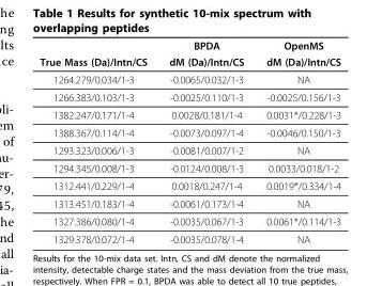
<table><thead><tr><td rowspan="2">True Mass (Da)/Intn/CS</td><td rowspan="2">BPDA dM (Da)/Intn/CS</td><td rowspan="2">OpenMS dM (Da)/Intn/CS</td></tr><tr></tr></thead><tbody><tr><td>1264.279/0.034/1-3</td><td>-0.0065/0.032/1-3</td><td>NA</td></tr><tr><td>1266.383/0.103/1-3</td><td>-0.0025/0.110/1-3</td><td>-0.0025/0.156/1-3</td></tr><tr><td>1382.247/0.171/1-4</td><td>0.0028/0.181/1-4</td><td>0.0031*/0.228/1-3</td></tr><tr><td>1388.367/0.114/1-4</td><td>-0.0073/0.097/1-4</td><td>-0.0046/0.150/1-3</td></tr><tr><td>1293.323/0.006/1-3</td><td>-0.0081/0.007/1-2</td><td>NA</td></tr><tr><td>1294.345/0.008/1-3</td><td>-0.0124/0.008/1-3</td><td>0.0033/0.018/1-2</td></tr><tr><td>1312.441/0.229/1-4</td><td>0.0018/0.247/1-4</td><td>0.0019*/0.334/1-4</td></tr><tr><td>1313.451/0.183/1-4</td><td>-0.0061/0.173/1-4</td><td>NA</td></tr><tr><td>1327.386/0.080/1-4</td><td>-0.0035/0.067/1-3</td><td>0.0061*/0.114/1-3</td></tr><tr><td>1329.378/0.072/1-4</td><td>-0.0035/0.078/1-4</td><td>NA</td></tr></tbody></table>